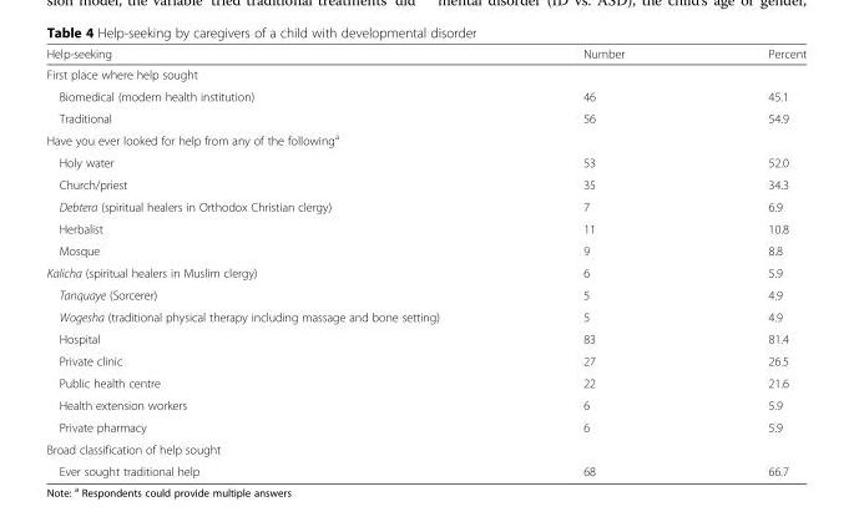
<table><thead><tr><td>Help-seeking</td><td>Number</td><td>Percent</td></tr></thead><tbody><tr><td colspan="3">First place where help sought</td></tr><tr><td>Biomedical (modern health institution)</td><td>46</td><td>45.1</td></tr><tr><td>Traditional</td><td>56</td><td>54.9</td></tr><tr><td colspan="3">Have you ever looked for help from any of the following<sup>a</sup></td></tr><tr><td>Holy water</td><td>53</td><td>52.0</td></tr><tr><td>Church/priest</td><td>35</td><td>34.3</td></tr><tr><td>Debtera (spiritual healers in Orthodox Christian clergy)</td><td>7</td><td>6.9</td></tr><tr><td>Herbalist</td><td>11</td><td>10.8</td></tr><tr><td>Mosque</td><td>9</td><td>8.8</td></tr><tr><td>Kalicha (spiritual healers in Muslim clergy)</td><td>6</td><td>5.9</td></tr><tr><td>Tanquaye (Sorcerer)</td><td>5</td><td>4.9</td></tr><tr><td>Wogesha (traditional physical therapy including massage and bone setting)</td><td>5</td><td>4.9</td></tr><tr><td>Hospital</td><td>83</td><td>81.4</td></tr><tr><td>Private clinic</td><td>27</td><td>26.5</td></tr><tr><td>Public health centre</td><td>22</td><td>21.6</td></tr><tr><td>Health extension workers</td><td>6</td><td>5.9</td></tr><tr><td>Private pharmacy</td><td>6</td><td>5.9</td></tr><tr><td colspan="3">Broad classification of help sought</td></tr><tr><td>Ever sought traditional help</td><td>68</td><td>66.7</td></tr></tbody></table>